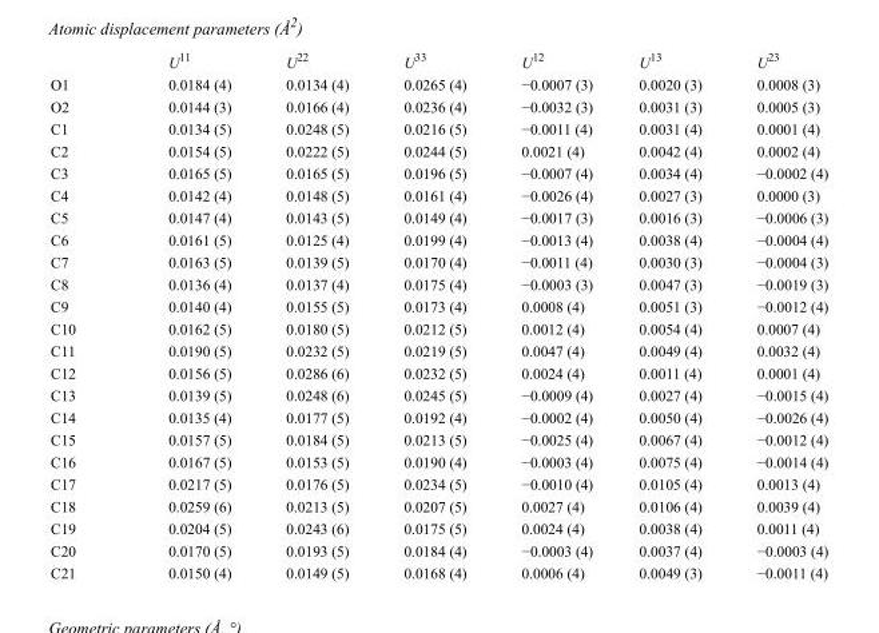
<table><thead><tr><td></td><td>U<sup>11</sup></td><td>U<sup>22</sup></td><td>U<sup>33</sup></td><td>U<sup>12</sup></td><td>U<sup>13</sup></td><td>U<sup>23</sup></td></tr></thead><tbody><tr><td>O1</td><td>0.0184 (4)</td><td>0.0134 (4)</td><td>0.0265 (4)</td><td>−0.0007 (3)</td><td>0.0020 (3)</td><td>0.0008 (3)</td></tr><tr><td>O2</td><td>0.0144 (3)</td><td>0.0166 (4)</td><td>0.0236 (4)</td><td>−0.0032 (3)</td><td>0.0031 (3)</td><td>0.0005 (3)</td></tr><tr><td>C1</td><td>0.0134 (5)</td><td>0.0248 (5)</td><td>0.0216 (5)</td><td>−0.0011 (4)</td><td>0.0031 (4)</td><td>0.0001 (4)</td></tr><tr><td>C2</td><td>0.0154 (5)</td><td>0.0222 (5)</td><td>0.0244 (5)</td><td>0.0021 (4)</td><td>0.0042 (4)</td><td>0.0002 (4)</td></tr><tr><td>C3</td><td>0.0165 (5)</td><td>0.0165 (5)</td><td>0.0196 (5)</td><td>−0.0007 (4)</td><td>0.0034 (4)</td><td>−0.0002 (4)</td></tr><tr><td>C4</td><td>0.0142 (4)</td><td>0.0148 (5)</td><td>0.0161 (4)</td><td>−0.0026 (4)</td><td>0.0027 (3)</td><td>0.0000 (3)</td></tr><tr><td>C5</td><td>0.0147 (4)</td><td>0.0143 (5)</td><td>0.0149 (4)</td><td>−0.0017 (3)</td><td>0.0016 (3)</td><td>−0.0006 (3)</td></tr><tr><td>C6</td><td>0.0161 (5)</td><td>0.0125 (4)</td><td>0.0199 (4)</td><td>−0.0013 (4)</td><td>0.0038 (4)</td><td>−0.0004 (4)</td></tr><tr><td>C7</td><td>0.0163 (5)</td><td>0.0139 (5)</td><td>0.0170 (4)</td><td>−0.0011 (4)</td><td>0.0030 (3)</td><td>−0.0004 (3)</td></tr><tr><td>C8</td><td>0.0136 (4)</td><td>0.0137 (4)</td><td>0.0175 (4)</td><td>−0.0003 (3)</td><td>0.0047 (3)</td><td>−0.0019 (3)</td></tr><tr><td>C9</td><td>0.0140 (4)</td><td>0.0155 (5)</td><td>0.0173 (4)</td><td>0.0008 (4)</td><td>0.0051 (3)</td><td>−0.0012 (4)</td></tr><tr><td>C10</td><td>0.0162 (5)</td><td>0.0180 (5)</td><td>0.0212 (5)</td><td>0.0012 (4)</td><td>0.0054 (4)</td><td>0.0007 (4)</td></tr><tr><td>C11</td><td>0.0190 (5)</td><td>0.0232 (5)</td><td>0.0219 (5)</td><td>0.0047 (4)</td><td>0.0049 (4)</td><td>0.0032 (4)</td></tr><tr><td>C12</td><td>0.0156 (5)</td><td>0.0286 (6)</td><td>0.0232 (5)</td><td>0.0024 (4)</td><td>0.0011 (4)</td><td>0.0001 (4)</td></tr><tr><td>C13</td><td>0.0139 (5)</td><td>0.0248 (6)</td><td>0.0245 (5)</td><td>−0.0009 (4)</td><td>0.0027 (4)</td><td>−0.0015 (4)</td></tr><tr><td>C14</td><td>0.0135 (4)</td><td>0.0177 (5)</td><td>0.0192 (4)</td><td>−0.0002 (4)</td><td>0.0050 (4)</td><td>−0.0026 (4)</td></tr><tr><td>C15</td><td>0.0157 (5)</td><td>0.0184 (5)</td><td>0.0213 (5)</td><td>−0.0025 (4)</td><td>0.0067 (4)</td><td>−0.0012 (4)</td></tr><tr><td>C16</td><td>0.0167 (5)</td><td>0.0153 (5)</td><td>0.0190 (4)</td><td>−0.0003 (4)</td><td>0.0075 (4)</td><td>−0.0014 (4)</td></tr><tr><td>C17</td><td>0.0217 (5)</td><td>0.0176 (5)</td><td>0.0234 (5)</td><td>−0.0010 (4)</td><td>0.0105 (4)</td><td>0.0013 (4)</td></tr><tr><td>C18</td><td>0.0259 (6)</td><td>0.0213 (5)</td><td>0.0207 (5)</td><td>0.0027 (4)</td><td>0.0106 (4)</td><td>0.0039 (4)</td></tr><tr><td>C19</td><td>0.0204 (5)</td><td>0.0243 (6)</td><td>0.0175 (5)</td><td>0.0024 (4)</td><td>0.0038 (4)</td><td>0.0011 (4)</td></tr><tr><td>C20</td><td>0.0170 (5)</td><td>0.0193 (5)</td><td>0.0184 (4)</td><td>−0.0003 (4)</td><td>0.0037 (4)</td><td>−0.0003 (4)</td></tr><tr><td>C21</td><td>0.0150 (4)</td><td>0.0149 (5)</td><td>0.0168 (4)</td><td>0.0006 (4)</td><td>0.0049 (3)</td><td>−0.0011 (4)</td></tr></tbody></table>